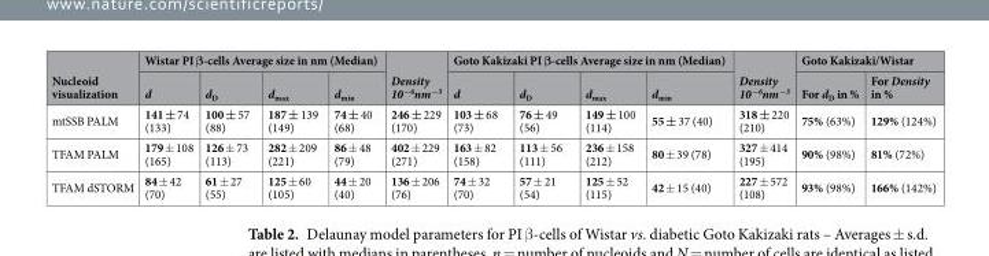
<table><thead><tr><td rowspan="2">Nucleoid visualization</td><td colspan="4">Wistar PI β-cells Average size in nm (Median)</td><td rowspan="2">Density 10<sup>−6</sup>nm<sup>−3</sup></td><td colspan="4">Goto Kakizaki PI β-cells Average size in nm (Median)</td><td rowspan="2">Density 10<sup>−6</sup>nm<sup>−3</sup></td><td colspan="2">Goto Kakizaki/Wistar</td></tr><tr><td>d</td><td>d<sub>D</sub></td><td>d<sub>max</sub></td><td>d<sub>min</sub></td><td>d</td><td>d<sub>D</sub></td><td>d<sub>max</sub></td><td>d<sub>min</sub></td><td>For d<sub>D</sub> in %</td><td>For Density in %</td></tr></thead><tbody><tr><td>mtSSB PALM</td><td>141 ± 74 (133)</td><td>100 ± 57 (88)</td><td>187 ± 139 (149)</td><td>74 ± 40 (68)</td><td>246 ± 229 (170)</td><td>103 ± 68 (73)</td><td>76 ± 49 (56)</td><td>149 ± 100 (114)</td><td>55 ± 37 (40)</td><td>318 ± 220 (210)</td><td>75% (63%)</td><td>129% (124%)</td></tr><tr><td>TFAM PALM</td><td>179 ± 108 (165)</td><td>126 ± 73 (113)</td><td>282 ± 209 (221)</td><td>86 ± 48 (79)</td><td>402 ± 229 (271)</td><td>163 ± 82 (158)</td><td>113 ± 56 (111)</td><td>236 ± 158 (212)</td><td>80 ± 39 (78)</td><td>327 ± 414 (195)</td><td>90% (98%)</td><td>81% (72%)</td></tr><tr><td>TFAM dSTORM</td><td>84 ± 42 (70)</td><td>61 ± 27 (55)</td><td>125 ± 60 (105)</td><td>44 ± 20 (40)</td><td>136 ± 206 (76)</td><td>74 ± 32 (70)</td><td>57 ± 21 (54)</td><td>125 ± 52 (115)</td><td>42 ± 15 (40)</td><td>227 ± 572 (108)</td><td>93% (98%)</td><td>166% (142%)</td></tr></tbody></table>